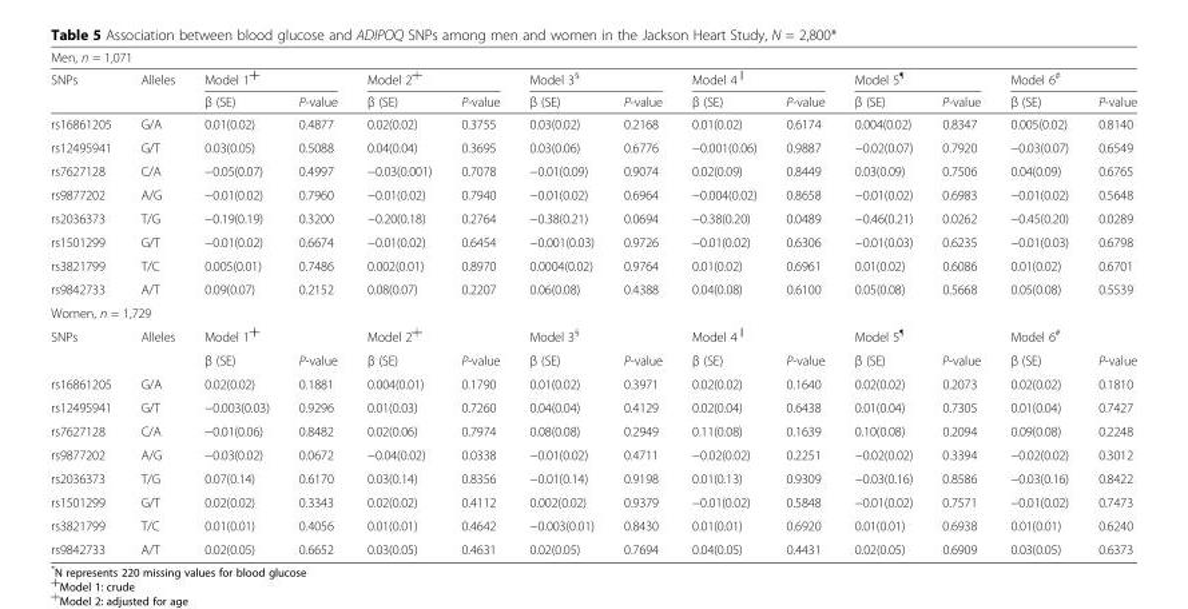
<table><thead><tr><td colspan="14">Men, n = 1,071</td></tr><tr><td rowspan="2">SNPs</td><td rowspan="2">Alleles</td><td colspan="2">Model 1<sup>┼</sup></td><td colspan="2">Model 2<sup>╪</sup></td><td colspan="2">Model 3<sup>§</sup></td><td colspan="2">Model 4<sup>║</sup></td><td colspan="2">Model 5<sup>¶</sup></td><td colspan="2">Model 6<sup>#</sup></td></tr><tr><td>β (SE)</td><td>P-value</td><td>β (SE)</td><td>P-value</td><td>β (SE)</td><td>P-value</td><td>β (SE)</td><td>P-value</td><td>β (SE)</td><td>P-value</td><td>β (SE)</td><td>P-value</td></tr></thead><tbody><tr><td>rs16861205</td><td>G/A</td><td>0.01(0.02)</td><td>0.4877</td><td>0.02(0.02)</td><td>0.3755</td><td>0.03(0.02)</td><td>0.2168</td><td>0.01(0.02)</td><td>0.6174</td><td>0.004(0.02)</td><td>0.8347</td><td>0.005(0.02)</td><td>0.8140</td></tr><tr><td>rs12495941</td><td>G/T</td><td>0.03(0.05)</td><td>0.5088</td><td>0.04(0.04)</td><td>0.3695</td><td>0.03(0.06)</td><td>0.6776</td><td>−0.001(0.06)</td><td>0.9887</td><td>−0.02(0.07)</td><td>0.7920</td><td>−0.03(0.07)</td><td>0.6549</td></tr><tr><td>rs7627128</td><td>C/A</td><td>−0.05(0.07)</td><td>0.4997</td><td>−0.03(0.001)</td><td>0.7078</td><td>−0.01(0.09)</td><td>0.9074</td><td>0.02(0.09)</td><td>0.8449</td><td>0.03(0.09)</td><td>0.7506</td><td>0.04(0.09)</td><td>0.6765</td></tr><tr><td>rs9877202</td><td>A/G</td><td>−0.01(0.02)</td><td>0.7960</td><td>−0.01(0.02)</td><td>0.7940</td><td>−0.01(0.02)</td><td>0.6964</td><td>−0.004(0.02)</td><td>0.8658</td><td>−0.01(0.02)</td><td>0.6983</td><td>−0.01(0.02)</td><td>0.5648</td></tr><tr><td>rs2036373</td><td>T/G</td><td>−0.19(0.19)</td><td>0.3200</td><td>−0.20(0.18)</td><td>0.2764</td><td>−0.38(0.21)</td><td>0.0694</td><td>−0.38(0.20)</td><td>0.0489</td><td>−0.46(0.21)</td><td>0.0262</td><td>−0.45(0.20)</td><td>0.0289</td></tr><tr><td>rs1501299</td><td>G/T</td><td>−0.01(0.02)</td><td>0.6674</td><td>−0.01(0.02)</td><td>0.6454</td><td>−0.001(0.03)</td><td>0.9726</td><td>−0.01(0.02)</td><td>0.6306</td><td>−0.01(0.03)</td><td>0.6235</td><td>−0.01(0.03)</td><td>0.6798</td></tr><tr><td>rs3821799</td><td>T/C</td><td>0.005(0.01)</td><td>0.7486</td><td>0.002(0.01)</td><td>0.8970</td><td>0.0004(0.02)</td><td>0.9764</td><td>0.01(0.02)</td><td>0.6961</td><td>0.01(0.02)</td><td>0.6086</td><td>0.01(0.02)</td><td>0.6701</td></tr><tr><td>rs9842733</td><td>A/T</td><td>0.09(0.07)</td><td>0.2152</td><td>0.08(0.07)</td><td>0.2207</td><td>0.06(0.08)</td><td>0.4388</td><td>0.04(0.08)</td><td>0.6100</td><td>0.05(0.08)</td><td>0.5668</td><td>0.05(0.08)</td><td>0.5539</td></tr><tr><td colspan="14">Women, n = 1,729</td></tr><tr><td rowspan="2">SNPs</td><td>Alleles</td><td colspan="2">Model 1<sup>┼</sup></td><td colspan="2">Model 2<sup>╪</sup></td><td colspan="2">Model 3<sup>§</sup></td><td colspan="2">Model 4<sup>║</sup></td><td colspan="2">Model 5<sup>¶</sup></td><td colspan="2">Model 6<sup>#</sup></td></tr><tr><td></td><td>β (SE)</td><td>P-value</td><td>β (SE)</td><td>P-value</td><td>β (SE)</td><td>P-value</td><td>β (SE)</td><td>P-value</td><td>β (SE)</td><td>P-value</td><td>β (SE)</td><td>P-value</td></tr><tr><td>rs16861205</td><td>G/A</td><td>0.02(0.02)</td><td>0.1881</td><td>0.004(0.01)</td><td>0.1790</td><td>0.01(0.02)</td><td>0.3971</td><td>0.02(0.02)</td><td>0.1640</td><td>0.02(0.02)</td><td>0.2073</td><td>0.02(0.02)</td><td>0.1810</td></tr><tr><td>rs12495941</td><td>G/T</td><td>−0.003(0.03)</td><td>0.9296</td><td>0.01(0.03)</td><td>0.7260</td><td>0.04(0.04)</td><td>0.4129</td><td>0.02(0.04)</td><td>0.6438</td><td>0.01(0.04)</td><td>0.7305</td><td>0.01(0.04)</td><td>0.7427</td></tr><tr><td>rs7627128</td><td>C/A</td><td>−0.01(0.06)</td><td>0.8482</td><td>0.02(0.06)</td><td>0.7974</td><td>0.08(0.08)</td><td>0.2949</td><td>0.11(0.08)</td><td>0.1639</td><td>0.10(0.08)</td><td>0.2094</td><td>0.09(0.08)</td><td>0.2248</td></tr><tr><td>rs9877202</td><td>A/G</td><td>−0.03(0.02)</td><td>0.0672</td><td>−0.04(0.02)</td><td>0.0338</td><td>−0.01(0.02)</td><td>0.4711</td><td>−0.02(0.02)</td><td>0.2251</td><td>−0.02(0.02)</td><td>0.3394</td><td>−0.02(0.02)</td><td>0.3012</td></tr><tr><td>rs2036373</td><td>T/G</td><td>0.07(0.14)</td><td>0.6170</td><td>0.03(0.14)</td><td>0.8356</td><td>−0.01(0.14)</td><td>0.9198</td><td>0.01(0.13)</td><td>0.9309</td><td>−0.03(0.16)</td><td>0.8586</td><td>−0.03(0.16)</td><td>0.8422</td></tr><tr><td>rs1501299</td><td>G/T</td><td>0.02(0.02)</td><td>0.3343</td><td>0.02(0.02)</td><td>0.4112</td><td>0.002(0.02)</td><td>0.9379</td><td>−0.01(0.02)</td><td>0.5848</td><td>−0.01(0.02)</td><td>0.7571</td><td>−0.01(0.02)</td><td>0.7473</td></tr><tr><td>rs3821799</td><td>T/C</td><td>0.01(0.01)</td><td>0.4056</td><td>0.01(0.01)</td><td>0.4642</td><td>−0.003(0.01)</td><td>0.8430</td><td>0.01(0.01)</td><td>0.6920</td><td>0.01(0.01)</td><td>0.6938</td><td>0.01(0.01)</td><td>0.6240</td></tr><tr><td>rs9842733</td><td>A/T</td><td>0.02(0.05)</td><td>0.6652</td><td>0.03(0.05)</td><td>0.4631</td><td>0.02(0.05)</td><td>0.7694</td><td>0.04(0.05)</td><td>0.4431</td><td>0.02(0.05)</td><td>0.6909</td><td>0.03(0.05)</td><td>0.6373</td></tr></tbody></table>